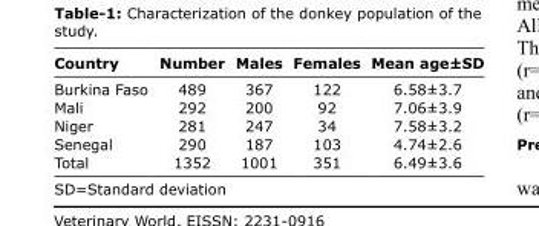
<table><thead><tr><td>Country</td><td>Number</td><td>Males</td><td>Females</td><td>Mean age±SD</td></tr></thead><tbody><tr><td>Burkina Faso</td><td>489</td><td>367</td><td>122</td><td>6.58±3.7</td></tr><tr><td>Mali</td><td>292</td><td>200</td><td>92</td><td>7.06±3.9</td></tr><tr><td>Niger</td><td>281</td><td>247</td><td>34</td><td>7.58±3.2</td></tr><tr><td>Senegal</td><td>290</td><td>187</td><td>103</td><td>4.74±2.6</td></tr><tr><td>Total</td><td>1352</td><td>1001</td><td>351</td><td>6.49±3.6</td></tr></tbody></table>